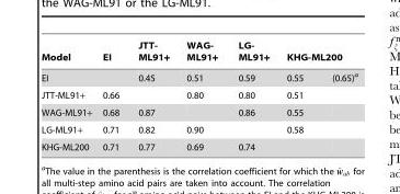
<table><thead><tr><td rowspan="2">Model EI</td><td rowspan="2">EI</td><td rowspan="2">JTT- ML91+ 0.45</td><td rowspan="2">WAG- ML91+ 0.51</td><td rowspan="2">LG- ML91+ 0.59</td><td colspan="2">KHG-ML200</td></tr><tr><td>0.55</td><td>(0.65)<sup>a</sup></td></tr></thead><tbody><tr><td>JTT-ML91+</td><td>0.66</td><td></td><td>0.80</td><td>0.80</td><td>0.51</td><td></td></tr><tr><td>WAG-ML91+</td><td>0.68</td><td>0.87</td><td></td><td>0.86</td><td>0.55</td><td></td></tr><tr><td>LG-ML91+</td><td>0.71</td><td>0.82</td><td>0.90</td><td></td><td>0.58</td><td></td></tr><tr><td>KHG-ML200</td><td>0.71</td><td>0.77</td><td>0.69</td><td>0.74</td><td></td><td></td></tr></tbody></table>